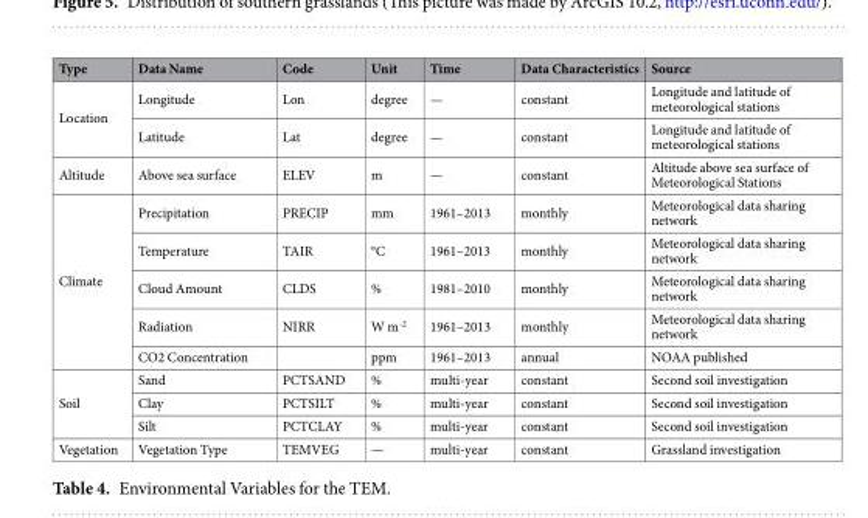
<table><thead><tr><td>Type</td><td>Data Name</td><td>Code</td><td>Unit</td><td>Time</td><td>Data Characteristics</td><td>Source</td></tr></thead><tbody><tr><td rowspan="2">Location</td><td>Longitude</td><td>Lon</td><td>degree</td><td>—</td><td>constant</td><td>Longitude and latitude of meteorological stations</td></tr><tr><td>Latitude</td><td>Lat</td><td>degree</td><td>—</td><td>constant</td><td>Longitude and latitude of meteorological stations</td></tr><tr><td>Altitude</td><td>Above sea surface</td><td>ELEV</td><td>m</td><td>—</td><td>constant</td><td>Altitude above sea surface of Meteorological Stations</td></tr><tr><td rowspan="5">Climate</td><td>Precipitation</td><td>PRECIP</td><td>mm</td><td>1961–2013</td><td>monthly</td><td>Meteorological data sharing network</td></tr><tr><td>Temperature</td><td>TAIR</td><td>°C</td><td>1961–2013</td><td>monthly</td><td>Meteorological data sharing network</td></tr><tr><td>Cloud Amount</td><td>CLDS</td><td>%</td><td>1981–2010</td><td>monthly</td><td>Meteorological data sharing network</td></tr><tr><td>Radiation</td><td>NIRR</td><td>W m<sup>-2</sup></td><td>1961–2013</td><td>monthly</td><td>Meteorological data sharing network</td></tr><tr><td>CO2 Concentration</td><td></td><td>ppm</td><td>1961–2013</td><td>annual</td><td>NOAA published</td></tr><tr><td rowspan="3">Soil</td><td>Sand</td><td>PCTSAND</td><td>%</td><td>multi-year</td><td>constant</td><td>Second soil investigation</td></tr><tr><td>Clay</td><td>PCTSILT</td><td>%</td><td>multi-year</td><td>constant</td><td>Second soil investigation</td></tr><tr><td>Silt</td><td>PCTCLAY</td><td>%</td><td>multi-year</td><td>constant</td><td>Second soil investigation</td></tr><tr><td>Vegetation</td><td>Vegetation Type</td><td>TEMVEG</td><td>—</td><td>multi-year</td><td>constant</td><td>Grassland investigation</td></tr></tbody></table>